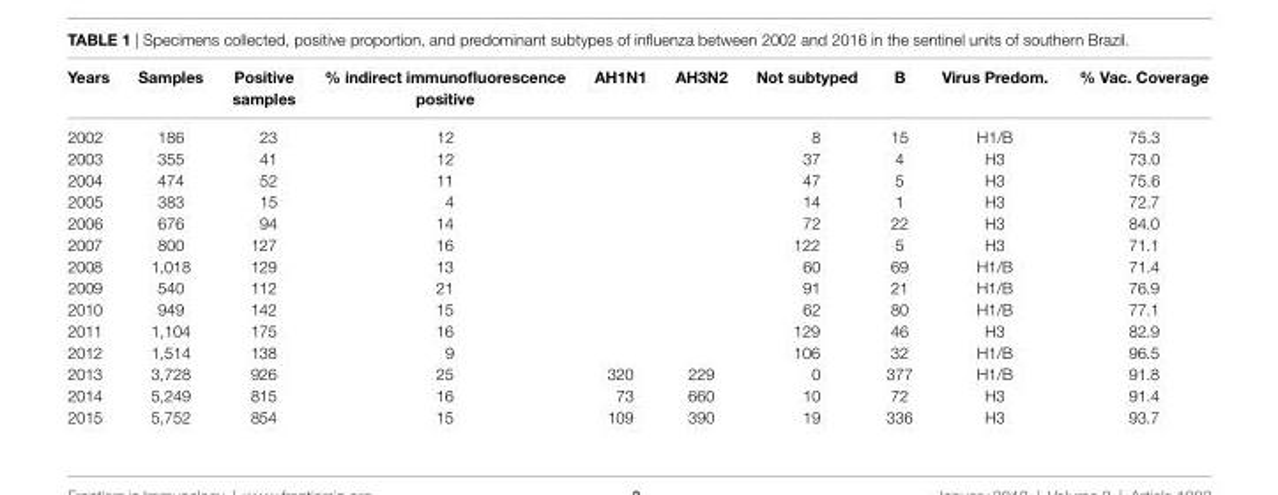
<table><thead><tr><td>Years</td><td>samples</td><td>Positive samples</td><td>% indirect immunofluorescence positive</td><td>ah1n1</td><td>ah3n2</td><td>not subtyped</td><td>B</td><td>Virus Predom.</td><td>% Vac. coverage</td></tr></thead><tbody><tr><td>2002</td><td>186</td><td>23</td><td>12</td><td></td><td></td><td>8</td><td>15</td><td>H1/B</td><td>75.3</td></tr><tr><td>2003</td><td>355</td><td>41</td><td>12</td><td></td><td></td><td>37</td><td>4</td><td>H3</td><td>73.0</td></tr><tr><td>2004</td><td>474</td><td>52</td><td>11</td><td></td><td></td><td>47</td><td>5</td><td>H3</td><td>75.6</td></tr><tr><td>2005</td><td>383</td><td>15</td><td>4</td><td></td><td></td><td>14</td><td>1</td><td>H3</td><td>72.7</td></tr><tr><td>2006</td><td>676</td><td>94</td><td>14</td><td></td><td></td><td>72</td><td>22</td><td>H3</td><td>84.0</td></tr><tr><td>2007</td><td>800</td><td>127</td><td>16</td><td></td><td></td><td>122</td><td>5</td><td>H3</td><td>71.1</td></tr><tr><td>2008</td><td>1,018</td><td>129</td><td>13</td><td></td><td></td><td>60</td><td>69</td><td>H1/B</td><td>71.4</td></tr><tr><td>2009</td><td>540</td><td>112</td><td>21</td><td></td><td></td><td>91</td><td>21</td><td>H1/B</td><td>76.9</td></tr><tr><td>2010</td><td>949</td><td>142</td><td>15</td><td></td><td></td><td>62</td><td>80</td><td>H1/B</td><td>77.1</td></tr><tr><td>2011</td><td>1,104</td><td>175</td><td>16</td><td></td><td></td><td>129</td><td>46</td><td>H3</td><td>82.9</td></tr><tr><td>2012</td><td>1,514</td><td>138</td><td>9</td><td></td><td></td><td>106</td><td>32</td><td>H1/B</td><td>96.5</td></tr><tr><td>2013</td><td>3,728</td><td>926</td><td>25</td><td>320</td><td>229</td><td>0</td><td>377</td><td>H1/B</td><td>91.8</td></tr><tr><td>2014</td><td>5,249</td><td>815</td><td>16</td><td>73</td><td>660</td><td>10</td><td>72</td><td>H3</td><td>91.4</td></tr><tr><td>2015</td><td>5,752</td><td>854</td><td>15</td><td>109</td><td>390</td><td>19</td><td>336</td><td>H3</td><td>93.7</td></tr></tbody></table>